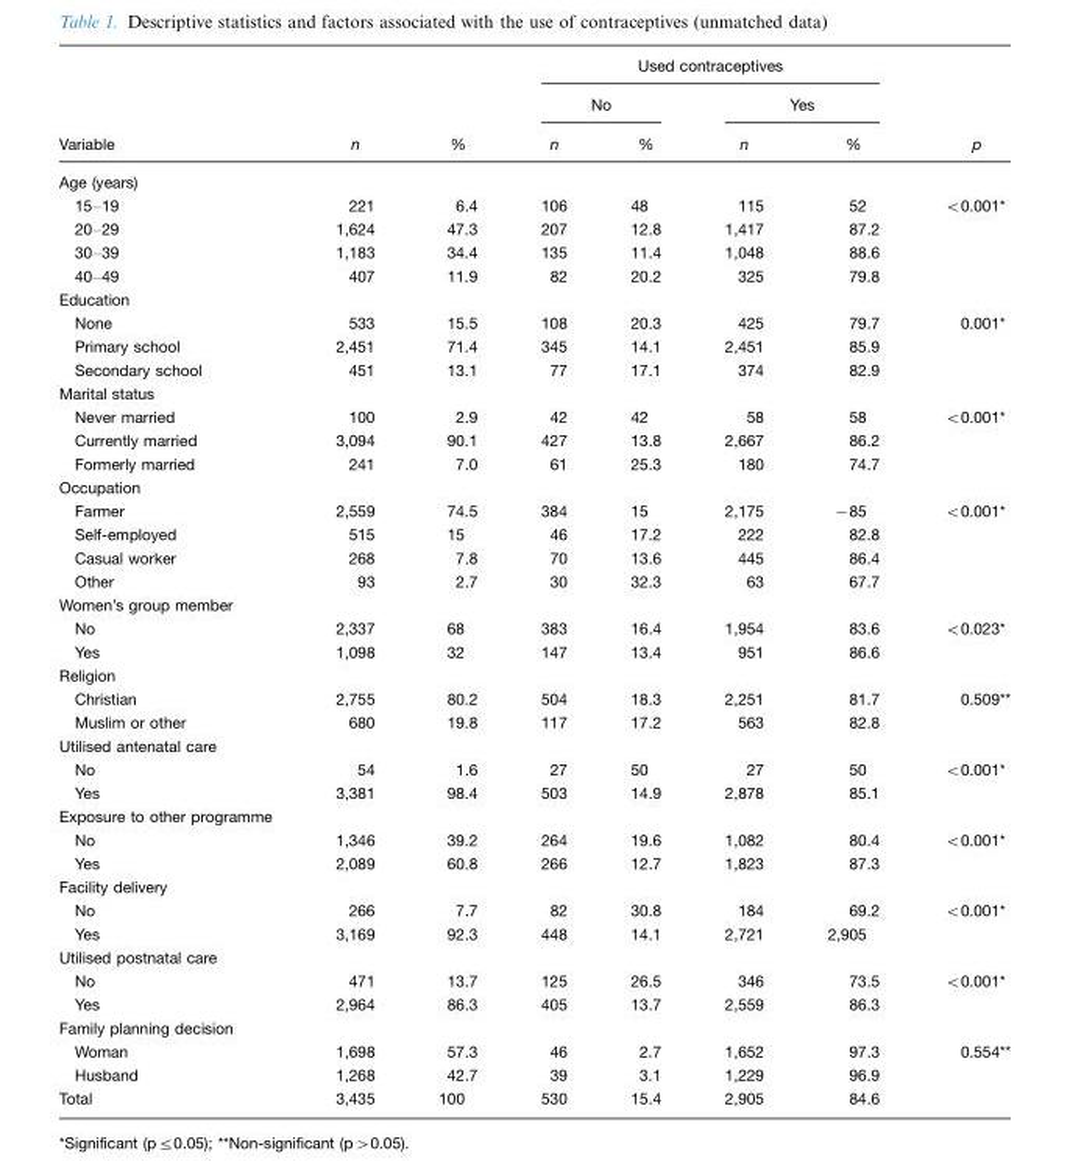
<table><thead><tr><td rowspan="3">Variable</td><td rowspan="3">n</td><td rowspan="3">%</td><td colspan="4">Used contraceptives</td><td rowspan="3">p</td></tr><tr><td colspan="2">No</td><td colspan="2">Yes</td></tr><tr><td>n</td><td>%</td><td>n</td><td>%</td></tr></thead><tbody><tr><td colspan="8">Age (years)</td></tr><tr><td>15–19</td><td>221</td><td>6.4</td><td>106</td><td>48</td><td>115</td><td>52</td><td>&lt;0.001*</td></tr><tr><td>20–29</td><td>1,624</td><td>47.3</td><td>207</td><td>12.8</td><td>1,417</td><td>87.2</td><td></td></tr><tr><td>30–39</td><td>1,183</td><td>34.4</td><td>135</td><td>11.4</td><td>1,048</td><td>88.6</td><td></td></tr><tr><td>40–49</td><td>407</td><td>11.9</td><td>82</td><td>20.2</td><td>325</td><td>79.8</td><td></td></tr><tr><td colspan="8">Education</td></tr><tr><td>None</td><td>533</td><td>15.5</td><td>108</td><td>20.3</td><td>425</td><td>79.7</td><td>0.001*</td></tr><tr><td>Primary school</td><td>2,451</td><td>71.4</td><td>345</td><td>14.1</td><td>2,451</td><td>85.9</td><td></td></tr><tr><td>Secondary school</td><td>451</td><td>13.1</td><td>77</td><td>17.1</td><td>374</td><td>82.9</td><td></td></tr><tr><td colspan="8">Marital status</td></tr><tr><td>Never married</td><td>100</td><td>2.9</td><td>42</td><td>42</td><td>58</td><td>58</td><td>&lt;0.001*</td></tr><tr><td>Currently married</td><td>3,094</td><td>90.1</td><td>427</td><td>13.8</td><td>2,667</td><td>86.2</td><td></td></tr><tr><td>Formerly married</td><td>241</td><td>7.0</td><td>61</td><td>25.3</td><td>180</td><td>74.7</td><td></td></tr><tr><td colspan="8">Occupation</td></tr><tr><td>Farmer</td><td>2,559</td><td>74.5</td><td>384</td><td>15</td><td>2,175</td><td>−85</td><td>&lt;0.001*</td></tr><tr><td>Self-employed</td><td>515</td><td>15</td><td>46</td><td>17.2</td><td>222</td><td>82.8</td><td></td></tr><tr><td>Casual worker</td><td>268</td><td>7.8</td><td>70</td><td>13.6</td><td>445</td><td>86.4</td><td></td></tr><tr><td>Other</td><td>93</td><td>2.7</td><td>30</td><td>32.3</td><td>63</td><td>67.7</td><td></td></tr><tr><td colspan="8">Women’s group member</td></tr><tr><td>No</td><td>2,337</td><td>68</td><td>383</td><td>16.4</td><td>1,954</td><td>83.6</td><td>&lt;0.023*</td></tr><tr><td>Yes</td><td>1,098</td><td>32</td><td>147</td><td>13.4</td><td>951</td><td>86.6</td><td></td></tr><tr><td colspan="8">Religion</td></tr><tr><td>Christian</td><td>2,755</td><td>80.2</td><td>504</td><td>18.3</td><td>2,251</td><td>81.7</td><td>0.509**</td></tr><tr><td>Muslim or other</td><td>680</td><td>19.8</td><td>117</td><td>17.2</td><td>563</td><td>82.8</td><td></td></tr><tr><td colspan="8">Utilised antenatal care</td></tr><tr><td>No</td><td>54</td><td>1.6</td><td>27</td><td>50</td><td>27</td><td>50</td><td>&lt;0.001*</td></tr><tr><td>Yes</td><td>3,381</td><td>98.4</td><td>503</td><td>14.9</td><td>2,878</td><td>85.1</td><td></td></tr><tr><td colspan="8">Exposure to other programme</td></tr><tr><td>No</td><td>1,346</td><td>39.2</td><td>264</td><td>19.6</td><td>1,082</td><td>80.4</td><td>&lt;0.001*</td></tr><tr><td>Yes</td><td>2,089</td><td>60.8</td><td>266</td><td>12.7</td><td>1,823</td><td>87.3</td><td></td></tr><tr><td colspan="8">Facility delivery</td></tr><tr><td>No</td><td>266</td><td>7.7</td><td>82</td><td>30.8</td><td>184</td><td>69.2</td><td>&lt;0.001*</td></tr><tr><td>Yes</td><td>3,169</td><td>92.3</td><td>448</td><td>14.1</td><td>2,721</td><td>2,905</td><td></td></tr><tr><td colspan="8">Utilised postnatal care</td></tr><tr><td>No</td><td>471</td><td>13.7</td><td>125</td><td>26.5</td><td>346</td><td>73.5</td><td>&lt;0.001*</td></tr><tr><td>Yes</td><td>2,964</td><td>86.3</td><td>405</td><td>13.7</td><td>2,559</td><td>86.3</td><td></td></tr><tr><td colspan="8">Family planning decision</td></tr><tr><td>Woman</td><td>1,698</td><td>57.3</td><td>46</td><td>2.7</td><td>1,652</td><td>97.3</td><td>0.554**</td></tr><tr><td>Husband</td><td>1,268</td><td>42.7</td><td>39</td><td>3.1</td><td>1,229</td><td>96.9</td><td></td></tr><tr><td>Total</td><td>3,435</td><td>100</td><td>530</td><td>15.4</td><td>2,905</td><td>84.6</td><td></td></tr></tbody></table>